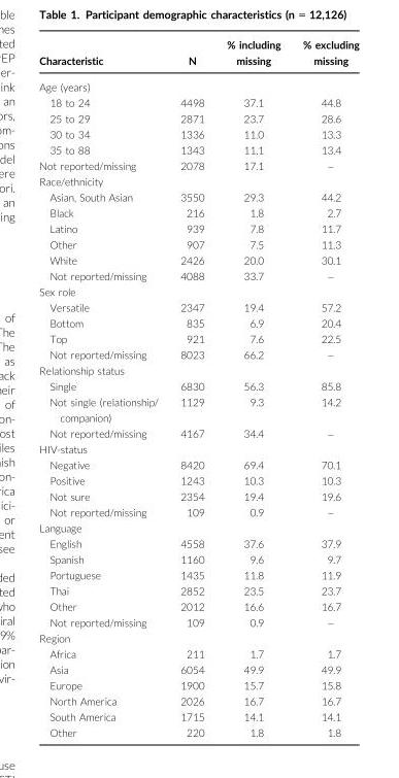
<table><thead><tr><td>Characteristic</td><td>N</td><td>% including missing</td><td>% excluding missing</td></tr></thead><tbody><tr><td colspan="4">Age (years)</td></tr><tr><td>18 to 24</td><td>4498</td><td>37.1</td><td>44.8</td></tr><tr><td>25 to 29</td><td>2871</td><td>23.7</td><td>28.6</td></tr><tr><td>30 to 34</td><td>1336</td><td>11.0</td><td>13.3</td></tr><tr><td>35 to 88</td><td>1343</td><td>11.1</td><td>13.4</td></tr><tr><td>Not reported/missing</td><td>2078</td><td>17.1</td><td>–</td></tr><tr><td colspan="4">Race/ethnicity</td></tr><tr><td>Asian, South Asian</td><td>3550</td><td>29.3</td><td>44.2</td></tr><tr><td>Black</td><td>216</td><td>1.8</td><td>2.7</td></tr><tr><td>Latino</td><td>939</td><td>7.8</td><td>11.7</td></tr><tr><td>Other</td><td>907</td><td>7.5</td><td>11.3</td></tr><tr><td>White</td><td>2426</td><td>20.0</td><td>30.1</td></tr><tr><td>Not reported/missing</td><td>4088</td><td>33.7</td><td>–</td></tr><tr><td colspan="4">Sex role</td></tr><tr><td>Versatile</td><td>2347</td><td>19.4</td><td>57.2</td></tr><tr><td>Bottom</td><td>835</td><td>6.9</td><td>20.4</td></tr><tr><td>Top</td><td>921</td><td>7.6</td><td>22.5</td></tr><tr><td>Not reported/missing</td><td>8023</td><td>66.2</td><td>–</td></tr><tr><td colspan="4">Relationship status</td></tr><tr><td>Single</td><td>6830</td><td>56.3</td><td>85.8</td></tr><tr><td>Not single (relationship/ companion)</td><td>1129</td><td>9.3</td><td>14.2</td></tr><tr><td>Not reported/missing</td><td>4167</td><td>34.4</td><td>–</td></tr><tr><td colspan="4">HIV-status</td></tr><tr><td>Negative</td><td>8420</td><td>69.4</td><td>70.1</td></tr><tr><td>Positive</td><td>1243</td><td>10.3</td><td>10.3</td></tr><tr><td>Not sure</td><td>2354</td><td>19.4</td><td>19.6</td></tr><tr><td>Not reported/missing</td><td>109</td><td>0.9</td><td>–</td></tr><tr><td colspan="4">Language</td></tr><tr><td>English</td><td>4558</td><td>37.6</td><td>37.9</td></tr><tr><td>Spanish</td><td>1160</td><td>9.6</td><td>9.7</td></tr><tr><td>Portuguese</td><td>1435</td><td>11.8</td><td>11.9</td></tr><tr><td>Thai</td><td>2852</td><td>23.5</td><td>23.7</td></tr><tr><td>Other</td><td>2012</td><td>16.6</td><td>16.7</td></tr><tr><td>Not reported/missing</td><td>109</td><td>0.9</td><td>–</td></tr><tr><td colspan="4">Region</td></tr><tr><td>Africa</td><td>211</td><td>1.7</td><td>1.7</td></tr><tr><td>Asia</td><td>6054</td><td>49.9</td><td>49.9</td></tr><tr><td>Europe</td><td>1900</td><td>15.7</td><td>15.8</td></tr><tr><td>North America</td><td>2026</td><td>16.7</td><td>16.7</td></tr><tr><td>South America</td><td>1715</td><td>14.1</td><td>14.1</td></tr><tr><td>Other</td><td>220</td><td>1.8</td><td>1.8</td></tr></tbody></table>